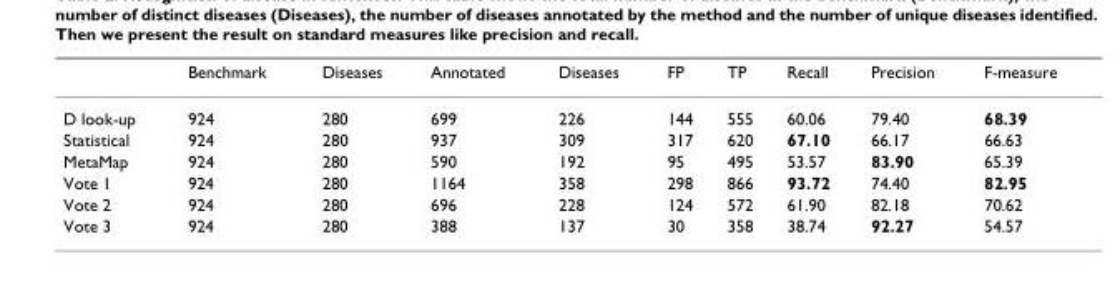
<table><thead><tr><td></td><td>Benchmark</td><td>Diseases</td><td>Annotated</td><td>Diseases</td><td>FP</td><td>TP</td><td>Recall</td><td>Precision</td><td>F-measure</td></tr></thead><tbody><tr><td>D look-up</td><td>924</td><td>280</td><td>699</td><td>226</td><td>144</td><td>555</td><td>60.06</td><td>79.40</td><td>68.39</td></tr><tr><td>Statistical</td><td>924</td><td>280</td><td>937</td><td>309</td><td>317</td><td>620</td><td>67.10</td><td>66.17</td><td>66.63</td></tr><tr><td>MetaMap</td><td>924</td><td>280</td><td>590</td><td>192</td><td>95</td><td>495</td><td>53.57</td><td>83.90</td><td>65.39</td></tr><tr><td>Vote 1</td><td>924</td><td>280</td><td>1164</td><td>358</td><td>298</td><td>866</td><td>93.72</td><td>74.40</td><td>82.95</td></tr><tr><td>Vote 2</td><td>924</td><td>280</td><td>696</td><td>228</td><td>124</td><td>572</td><td>61.90</td><td>82.18</td><td>70.62</td></tr><tr><td>Vote 3</td><td>924</td><td>280</td><td>388</td><td>137</td><td>30</td><td>358</td><td>38.74</td><td>92.27</td><td>54.57</td></tr></tbody></table>